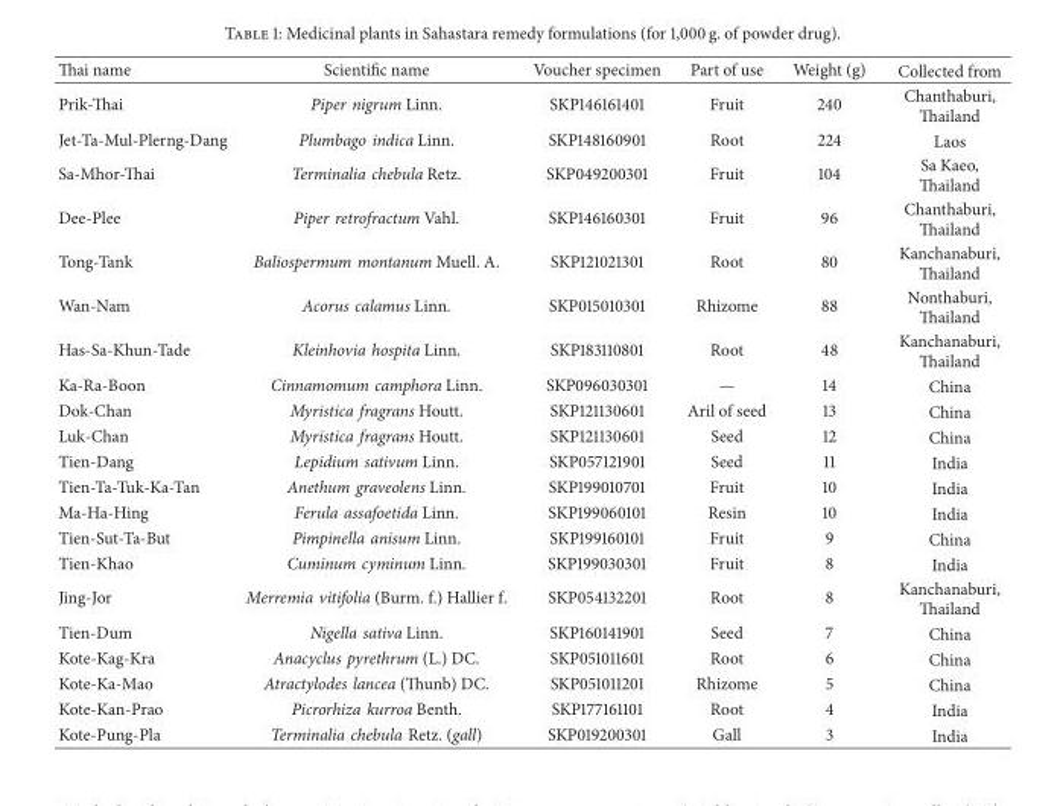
<table><thead><tr><td>Thai name</td><td>Scientific name</td><td>Voucher specimen</td><td>Part of use</td><td>Weight (g)</td><td>Collected from</td></tr></thead><tbody><tr><td>Prik-Thai</td><td>Piper nigrum Linn.</td><td>SKP146161401</td><td>Fruit</td><td>240</td><td>Chanthaburi, Thailand</td></tr><tr><td>Jet-Ta-Mul-Plerng-Dang</td><td>Plumbago indica Linn.</td><td>SKP148160901</td><td>Root</td><td>224</td><td>Laos</td></tr><tr><td>Sa-Mhor-Thai</td><td>Terminalia chebula Retz.</td><td>SKP049200301</td><td>Fruit</td><td>104</td><td>Sa Kaeo, Thailand</td></tr><tr><td>Dee-Plee</td><td>Piper retrofractum Vahl.</td><td>SKP146160301</td><td>Fruit</td><td>96</td><td>Chanthaburi, Thailand</td></tr><tr><td>Tong-Tank</td><td>Baliospermum montanum Muell. A.</td><td>SKP121021301</td><td>Root</td><td>80</td><td>Kanchanaburi, Thailand</td></tr><tr><td>Wan-Nam</td><td>Acorus calamus Linn.</td><td>SKP015010301</td><td>Rhizome</td><td>88</td><td>Nonthaburi, Thailand</td></tr><tr><td>Has-Sa-Khun-Tade</td><td>Kleinhovia hospita Linn.</td><td>SKP183110801</td><td>Root</td><td>48</td><td>Kanchanaburi, Thailand</td></tr><tr><td>Ka-Ra-Boon</td><td>Cinnamomum camphora Linn.</td><td>SKP096030301</td><td>—</td><td>14</td><td>China</td></tr><tr><td>Dok-Chan</td><td>Myristica fragrans Houtt.</td><td>SKP121130601</td><td>Aril of seed</td><td>13</td><td>China</td></tr><tr><td>Luk-Chan</td><td>Myristica fragrans Houtt.</td><td>SKP121130601</td><td>Seed</td><td>12</td><td>China</td></tr><tr><td>Tien-Dang</td><td>Lepidium sativum Linn.</td><td>SKP057121901</td><td>Seed</td><td>11</td><td>India</td></tr><tr><td>Tien-Ta-Tuk-Ka-Tan</td><td>Anethum graveolens Linn.</td><td>SKP199010701</td><td>Fruit</td><td>10</td><td>India</td></tr><tr><td>Ma-Ha-Hing</td><td>Ferula assafoetida Linn.</td><td>SKP199060101</td><td>Resin</td><td>10</td><td>India</td></tr><tr><td>Tien-Sut-Ta-But</td><td>Pimpinella anisum Linn.</td><td>SKP199160101</td><td>Fruit</td><td>9</td><td>China</td></tr><tr><td>Tien-Khao</td><td>Cuminum cyminum Linn.</td><td>SKP199030301</td><td>Fruit</td><td>8</td><td>India</td></tr><tr><td>Jing-Jor</td><td>Merremia vitifolia (Burm. f.) Hallier f.</td><td>SKP054132201</td><td>Root</td><td>8</td><td>Kanchanaburi, Thailand</td></tr><tr><td>Tien-Dum</td><td>Nigella sativa Linn.</td><td>SKP160141901</td><td>Seed</td><td>7</td><td>China</td></tr><tr><td>Kote-Kag-Kra</td><td>Anacyclus pyrethrum (L.) DC.</td><td>SKP051011601</td><td>Root</td><td>6</td><td>China</td></tr><tr><td>Kote-Ka-Mao</td><td>Atractylodes lancea (Thunb) DC.</td><td>SKP051011201</td><td>Rhizome</td><td>5</td><td>China</td></tr><tr><td>Kote-Kan-Prao</td><td>Picrorhiza kurroa Benth.</td><td>SKP177161101</td><td>Root</td><td>4</td><td>India</td></tr><tr><td>Kote-Pung-Pla</td><td>Terminalia chebula Retz. (gall)</td><td>SKP019200301</td><td>Gall</td><td>3</td><td>India</td></tr></tbody></table>